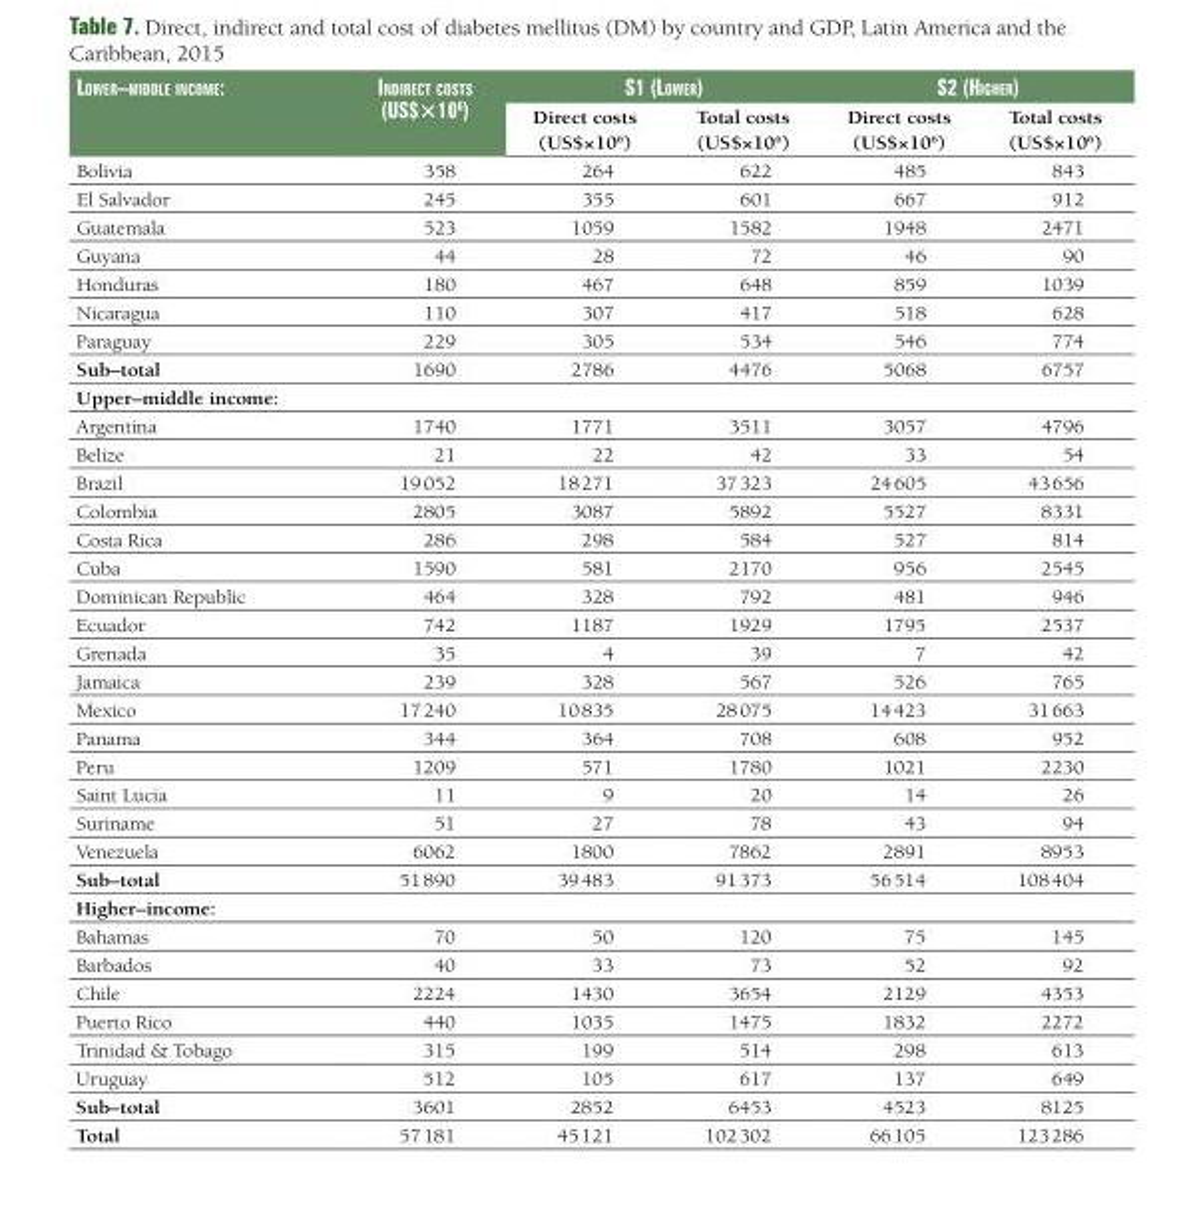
<table><thead><tr><td rowspan="2">Lower–mIddLe Income:</td><td rowspan="2">IndIrect costs (us$×10<sup>6</sup>)</td><td colspan="2">s1 (Lower)</td><td colspan="2">s2 (hIgher)</td></tr><tr><td>Direct costs (US$×10<sup>6</sup>)</td><td>Total costs (US$×10<sup>6</sup>)</td><td>Direct costs (US$×10<sup>6</sup>)</td><td>Total costs (US$×10<sup>6</sup>)</td></tr></thead><tbody><tr><td>Bolivia</td><td>358</td><td>264</td><td>622</td><td>485</td><td>843</td></tr><tr><td>El Salvador</td><td>245</td><td>355</td><td>601</td><td>667</td><td>912</td></tr><tr><td>Guatemala</td><td>523</td><td>1059</td><td>1582</td><td>1948</td><td>2471</td></tr><tr><td>Guyana</td><td>44</td><td>28</td><td>72</td><td>46</td><td>90</td></tr><tr><td>Honduras</td><td>180</td><td>467</td><td>648</td><td>859</td><td>1039</td></tr><tr><td>Nicaragua</td><td>110</td><td>307</td><td>417</td><td>518</td><td>628</td></tr><tr><td>Paraguay</td><td>229</td><td>305</td><td>534</td><td>546</td><td>774</td></tr><tr><td>Sub–total</td><td>1690</td><td>2786</td><td>4476</td><td>5068</td><td>6757</td></tr><tr><td colspan="6">Upper–middle income:</td></tr><tr><td>Argentina</td><td>1740</td><td>1771</td><td>3511</td><td>3057</td><td>4796</td></tr><tr><td>Belize</td><td>21</td><td>22</td><td>42</td><td>33</td><td>54</td></tr><tr><td>Brazil</td><td>19 052</td><td>18 271</td><td>37 323</td><td>24 605</td><td>43 656</td></tr><tr><td>Colombia</td><td>2805</td><td>3087</td><td>5892</td><td>5527</td><td>8331</td></tr><tr><td>Costa Rica</td><td>286</td><td>298</td><td>584</td><td>527</td><td>814</td></tr><tr><td>Cuba</td><td>1590</td><td>581</td><td>2170</td><td>956</td><td>2545</td></tr><tr><td>Dominican Republic</td><td>464</td><td>328</td><td>792</td><td>481</td><td>946</td></tr><tr><td>Ecuador</td><td>742</td><td>1187</td><td>1929</td><td>1795</td><td>2537</td></tr><tr><td>Grenada</td><td>35</td><td>4</td><td>39</td><td>7</td><td>42</td></tr><tr><td>Jamaica</td><td>239</td><td>328</td><td>567</td><td>526</td><td>765</td></tr><tr><td>Mexico</td><td>17 240</td><td>10 835</td><td>28 075</td><td>14 423</td><td>31 663</td></tr><tr><td>Panama</td><td>344</td><td>364</td><td>708</td><td>608</td><td>952</td></tr><tr><td>Peru</td><td>1209</td><td>571</td><td>1780</td><td>1021</td><td>2230</td></tr><tr><td>Saint Lucia</td><td>11</td><td>9</td><td>20</td><td>14</td><td>26</td></tr><tr><td>Suriname</td><td>51</td><td>27</td><td>78</td><td>43</td><td>94</td></tr><tr><td>Venezuela</td><td>6062</td><td>1800</td><td>7862</td><td>2891</td><td>8953</td></tr><tr><td>Sub–total</td><td>51 890</td><td>39 483</td><td>91 373</td><td>56 514</td><td>108 404</td></tr><tr><td colspan="6">Higher–income:</td></tr><tr><td>Bahamas</td><td>70</td><td>50</td><td>120</td><td>75</td><td>145</td></tr><tr><td>Barbados</td><td>40</td><td>33</td><td>73</td><td>52</td><td>92</td></tr><tr><td>Chile</td><td>2224</td><td>1430</td><td>3654</td><td>2129</td><td>4353</td></tr><tr><td>Puerto Rico</td><td>440</td><td>1035</td><td>1475</td><td>1832</td><td>2272</td></tr><tr><td>Trinidad &amp; Tobago</td><td>315</td><td>199</td><td>514</td><td>298</td><td>613</td></tr><tr><td>Uruguay</td><td>512</td><td>105</td><td>617</td><td>137</td><td>649</td></tr><tr><td>Sub–total</td><td>3601</td><td>2852</td><td>6453</td><td>4523</td><td>8125</td></tr><tr><td>Total</td><td>57 181</td><td>45 121</td><td>102 302</td><td>66 105</td><td>123 286</td></tr></tbody></table>